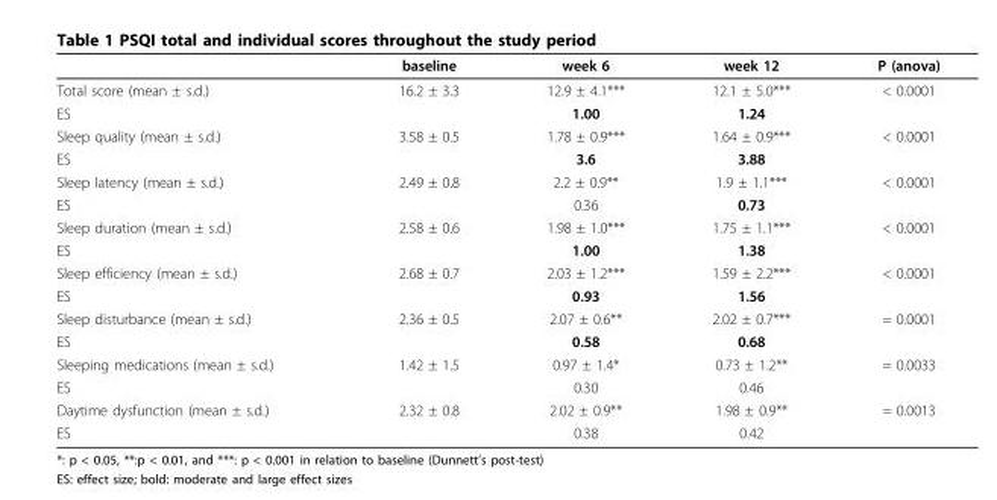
<table><thead><tr><td></td><td>baseline</td><td>week 6</td><td>week 12</td><td>P (anova)</td></tr></thead><tbody><tr><td>Total score (mean ± s.d.)</td><td>16.2 ± 3.3</td><td>12.9 ± 4.1***</td><td>12.1 ± 5.0***</td><td>&lt; 0.0001</td></tr><tr><td>ES</td><td></td><td>1.00</td><td>1.24</td><td></td></tr><tr><td>Sleep quality (mean ± s.d.)</td><td>3.58 ± 0.5</td><td>1.78 ± 0.9***</td><td>1.64 ± 0.9***</td><td>&lt; 0.0001</td></tr><tr><td>ES</td><td></td><td>3.6</td><td>3.88</td><td></td></tr><tr><td>Sleep latency (mean ± s.d.)</td><td>2.49 ± 0.8</td><td>2.2 ± 0.9**</td><td>1.9 ± 1.1***</td><td>&lt; 0.0001</td></tr><tr><td>ES</td><td></td><td>0.36</td><td>0.73</td><td></td></tr><tr><td>Sleep duration (mean ± s.d.)</td><td>2.58 ± 0.6</td><td>1.98 ± 1.0***</td><td>1.75 ± 1.1***</td><td>&lt; 0.0001</td></tr><tr><td>ES</td><td></td><td>1.00</td><td>1.38</td><td></td></tr><tr><td>Sleep efficiency (mean ± s.d.)</td><td>2.68 ± 0.7</td><td>2.03 ± 1.2***</td><td>1.59 ± 2.2***</td><td>&lt; 0.0001</td></tr><tr><td>ES</td><td></td><td>0.93</td><td>1.56</td><td></td></tr><tr><td>Sleep disturbance (mean ± s.d.)</td><td>2.36 ± 0.5</td><td>2.07 ± 0.6**</td><td>2.02 ± 0.7***</td><td>= 0.0001</td></tr><tr><td>ES</td><td></td><td>0.58</td><td>0.68</td><td></td></tr><tr><td>Sleeping medications (mean ± s.d.)</td><td>1.42 ± 1.5</td><td>0.97 ± 1.4*</td><td>0.73 ± 1.2**</td><td>= 0.0033</td></tr><tr><td>ES</td><td></td><td>0.30</td><td>0.46</td><td></td></tr><tr><td>Daytime dysfunction (mean ± s.d.)</td><td>2.32 ± 0.8</td><td>2.02 ± 0.9**</td><td>1.98 ± 0.9**</td><td>= 0.0013</td></tr><tr><td>ES</td><td></td><td>0.38</td><td>0.42</td><td></td></tr></tbody></table>